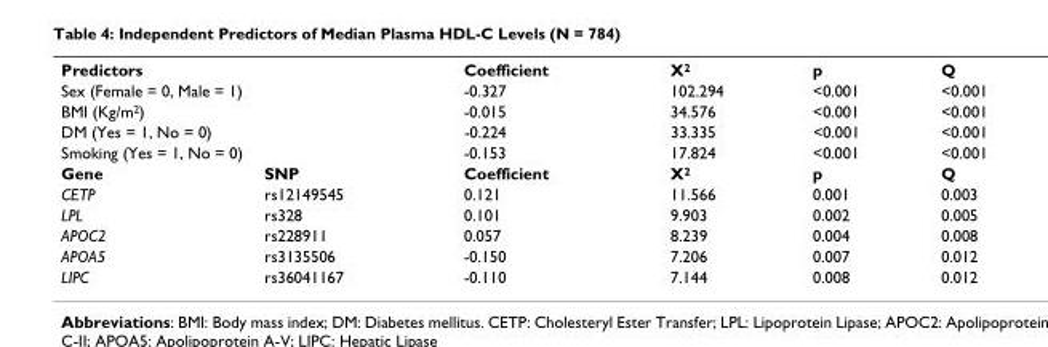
<table><tbody><tr><td>Predictors</td><td></td><td>Coefficient</td><td>X<sup>2</sup></td><td>p</td><td>Q</td></tr><tr><td colspan="2">Sex (Female = 0, Male = 1)</td><td>-0.327</td><td>102.294</td><td>&lt;0.001</td><td>&lt;0.001</td></tr><tr><td colspan="2">BMI (Kg/m<sup>2</sup>)</td><td>-0.015</td><td>34.576</td><td>&lt;0.001</td><td>&lt;0.001</td></tr><tr><td colspan="2">DM (Yes = 1, No = 0)</td><td>-0.224</td><td>33.335</td><td>&lt;0.001</td><td>&lt;0.001</td></tr><tr><td colspan="2">Smoking (Yes = 1, No = 0)</td><td>-0.153</td><td>17.824</td><td>&lt;0.001</td><td>&lt;0.001</td></tr><tr><td>Gene</td><td>SNP</td><td>Coefficient</td><td>X<sup>2</sup></td><td>p</td><td>Q</td></tr><tr><td>CETP</td><td>rs12149545</td><td>0.121</td><td>11.566</td><td>0.001</td><td>0.003</td></tr><tr><td>LPL</td><td>rs328</td><td>0.101</td><td>9.903</td><td>0.002</td><td>0.005</td></tr><tr><td>APOC2</td><td>rs228911</td><td>0.057</td><td>8.239</td><td>0.004</td><td>0.008</td></tr><tr><td>APOA5</td><td>rs3135506</td><td>-0.150</td><td>7.206</td><td>0.007</td><td>0.012</td></tr><tr><td>LIPC</td><td>rs36041167</td><td>-0.110</td><td>7.144</td><td>0.008</td><td>0.012</td></tr></tbody></table>